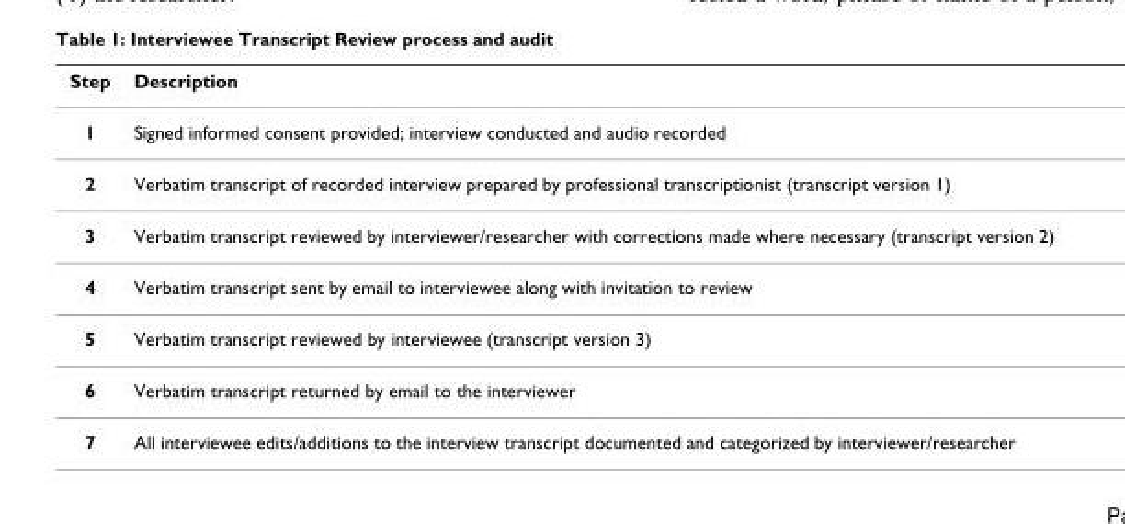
<table><thead><tr><td>Step</td><td>Description</td></tr></thead><tbody><tr><td>1</td><td>Signed informed consent provided; interview conducted and audio recorded</td></tr><tr><td>2</td><td>Verbatim transcript of recorded interview prepared by professional transcriptionist (transcript version 1)</td></tr><tr><td>3</td><td>Verbatim transcript reviewed by interviewer/researcher with corrections made where necessary (transcript version 2)</td></tr><tr><td>4</td><td>Verbatim transcript sent by email to interviewee along with invitation to review</td></tr><tr><td>5</td><td>Verbatim transcript reviewed by interviewee (transcript version 3)</td></tr><tr><td>6</td><td>Verbatim transcript returned by email to the interviewer</td></tr><tr><td>7</td><td>All interviewee edits/additions to the interview transcript documented and categorized by interviewer/researcher</td></tr></tbody></table>